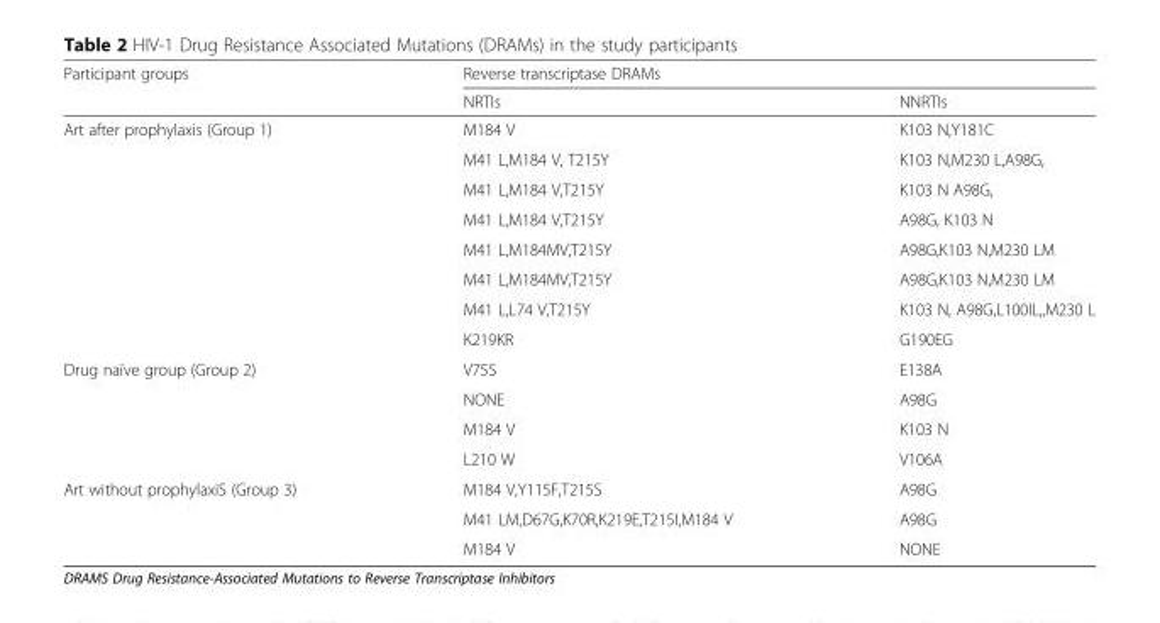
<table><thead><tr><td rowspan="2">Participant groups</td><td colspan="2">Reverse transcriptase DRAMs</td></tr><tr><td>NRTIs</td><td>NNRTIs</td></tr></thead><tbody><tr><td rowspan="8">Art after prophylaxis (Group 1)</td><td>M184 V</td><td>K103 N,Y181C</td></tr><tr><td>M41 L,M184 V, T215Y</td><td>K103 N,M230 L,A98G,</td></tr><tr><td>M41 L,M184 V,T215Y</td><td>K103 N A98G,</td></tr><tr><td>M41 L,M184 V,T215Y</td><td>A98G, K103 N</td></tr><tr><td>M41 L,M184MV,T215Y</td><td>A98G,K103 N,M230 LM</td></tr><tr><td>M41 L,M184MV,T215Y</td><td>A98G,K103 N,M230 LM</td></tr><tr><td>M41 L,L74 V,T215Y</td><td>K103 N, A98G,L100IL,,M230 L</td></tr><tr><td>K219KR</td><td>G190EG</td></tr><tr><td rowspan="4">Drug naïve group (Group 2)</td><td>V75S</td><td>E138A</td></tr><tr><td>NONE</td><td>A98G</td></tr><tr><td>M184 V</td><td>K103 N</td></tr><tr><td>L210 W</td><td>V106A</td></tr><tr><td rowspan="3">Art without prophylaxiS (Group 3)</td><td>M184 V,Y115F,T215S</td><td>A98G</td></tr><tr><td>M41 LM,D67G,K70R,K219E,T215I,M184 V</td><td>A98G</td></tr><tr><td>M184 V</td><td>NONE</td></tr></tbody></table>